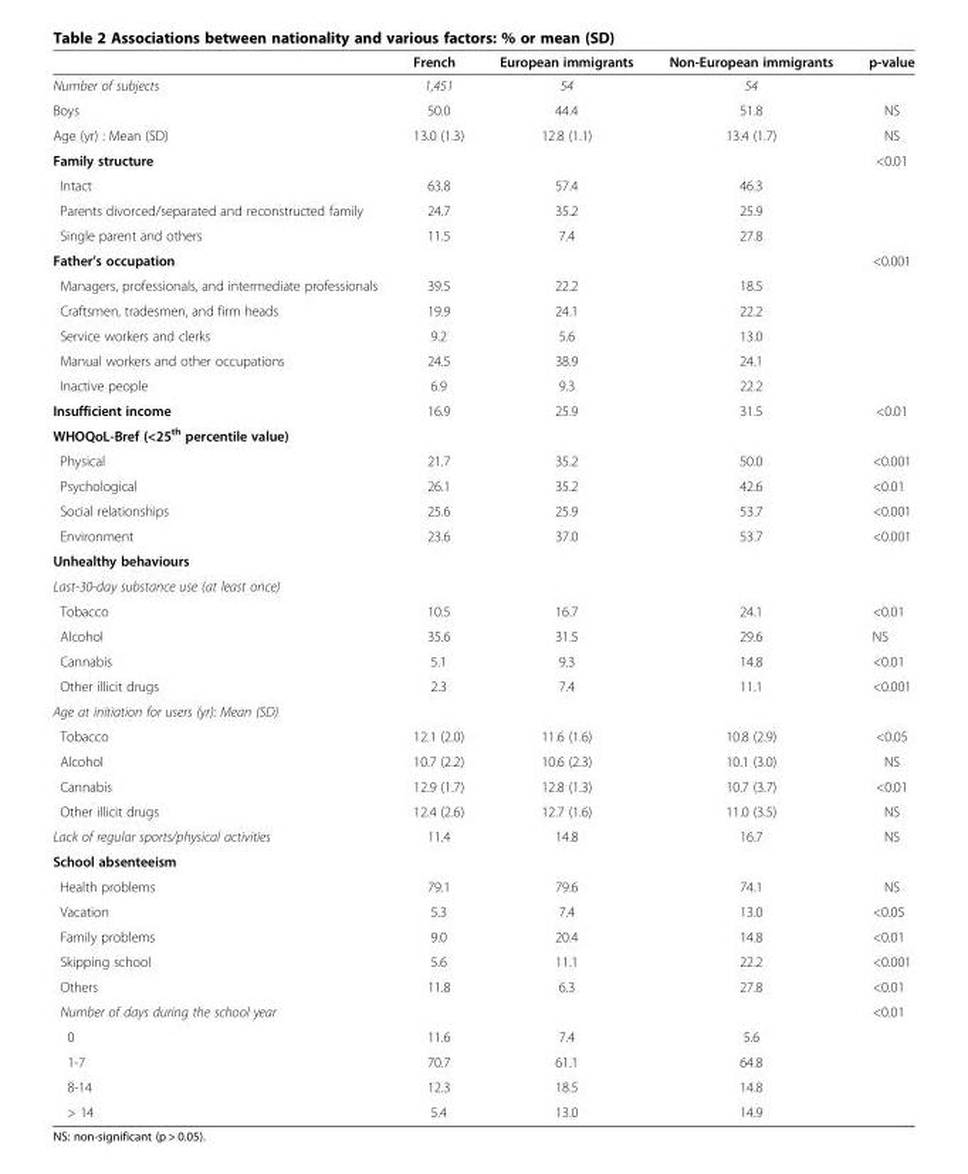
<table><thead><tr><td></td><td>French</td><td>European immigrants</td><td>Non-European immigrants</td><td>p-value</td></tr></thead><tbody><tr><td>Number of subjects</td><td>1,451</td><td>54</td><td>54</td><td></td></tr><tr><td>Boys</td><td>50.0</td><td>44.4</td><td>51.8</td><td>NS</td></tr><tr><td>Age (yr) : Mean (SD)</td><td>13.0 (1.3)</td><td>12.8 (1.1)</td><td>13.4 (1.7)</td><td>NS</td></tr><tr><td>Family structure</td><td></td><td></td><td></td><td>&lt;0.01</td></tr><tr><td>Intact</td><td>63.8</td><td>57.4</td><td>46.3</td><td></td></tr><tr><td>Parents divorced/separated and reconstructed family</td><td>24.7</td><td>35.2</td><td>25.9</td><td></td></tr><tr><td>Single parent and others</td><td>11.5</td><td>7.4</td><td>27.8</td><td></td></tr><tr><td>Father’s occupation</td><td></td><td></td><td></td><td>&lt;0.001</td></tr><tr><td>Managers, professionals, and intermediate professionals</td><td>39.5</td><td>22.2</td><td>18.5</td><td></td></tr><tr><td>Craftsmen, tradesmen, and firm heads</td><td>19.9</td><td>24.1</td><td>22.2</td><td></td></tr><tr><td>Service workers and clerks</td><td>9.2</td><td>5.6</td><td>13.0</td><td></td></tr><tr><td>Manual workers and other occupations</td><td>24.5</td><td>38.9</td><td>24.1</td><td></td></tr><tr><td>Inactive people</td><td>6.9</td><td>9.3</td><td>22.2</td><td></td></tr><tr><td>Insufficient income</td><td>16.9</td><td>25.9</td><td>31.5</td><td>&lt;0.01</td></tr><tr><td colspan="5">WHOQoL-Bref (&lt;25<sup>th</sup> percentile value)</td></tr><tr><td>Physical</td><td>21.7</td><td>35.2</td><td>50.0</td><td>&lt;0.001</td></tr><tr><td>Psychological</td><td>26.1</td><td>35.2</td><td>42.6</td><td>&lt;0.01</td></tr><tr><td>Social relationships</td><td>25.6</td><td>25.9</td><td>53.7</td><td>&lt;0.001</td></tr><tr><td>Environment</td><td>23.6</td><td>37.0</td><td>53.7</td><td>&lt;0.001</td></tr><tr><td colspan="5">Unhealthy behaviours</td></tr><tr><td colspan="5">Last-30-day substance use (at least once)</td></tr><tr><td>Tobacco</td><td>10.5</td><td>16.7</td><td>24.1</td><td>&lt;0.01</td></tr><tr><td>Alcohol</td><td>35.6</td><td>31.5</td><td>29.6</td><td>NS</td></tr><tr><td>Cannabis</td><td>5.1</td><td>9.3</td><td>14.8</td><td>&lt;0.01</td></tr><tr><td>Other illicit drugs</td><td>2.3</td><td>7.4</td><td>11.1</td><td>&lt;0.001</td></tr><tr><td colspan="5">Age at initiation for users (yr): Mean (SD)</td></tr><tr><td>Tobacco</td><td>12.1 (2.0)</td><td>11.6 (1.6)</td><td>10.8 (2.9)</td><td>&lt;0.05</td></tr><tr><td>Alcohol</td><td>10.7 (2.2)</td><td>10.6 (2.3)</td><td>10.1 (3.0)</td><td>NS</td></tr><tr><td>Cannabis</td><td>12.9 (1.7)</td><td>12.8 (1.3)</td><td>10.7 (3.7)</td><td>&lt;0.01</td></tr><tr><td>Other illicit drugs</td><td>12.4 (2.6)</td><td>12.7 (1.6)</td><td>11.0 (3.5)</td><td>NS</td></tr><tr><td>Lack of regular sports/physical activities</td><td>11.4</td><td>14.8</td><td>16.7</td><td>NS</td></tr><tr><td colspan="5">School absenteeism</td></tr><tr><td>Health problems</td><td>79.1</td><td>79.6</td><td>74.1</td><td>NS</td></tr><tr><td>Vacation</td><td>5.3</td><td>7.4</td><td>13.0</td><td>&lt;0.05</td></tr><tr><td>Family problems</td><td>9.0</td><td>20.4</td><td>14.8</td><td>&lt;0.01</td></tr><tr><td>Skipping school</td><td>5.6</td><td>11.1</td><td>22.2</td><td>&lt;0.001</td></tr><tr><td>Others</td><td>11.8</td><td>6.3</td><td>27.8</td><td>&lt;0.01</td></tr><tr><td>Number of days during the school year</td><td></td><td></td><td></td><td>&lt;0.01</td></tr><tr><td>0</td><td>11.6</td><td>7.4</td><td>5.6</td><td></td></tr><tr><td>1-7</td><td>70.7</td><td>61.1</td><td>64.8</td><td></td></tr><tr><td>8-14</td><td>12.3</td><td>18.5</td><td>14.8</td><td></td></tr><tr><td>&gt; 14</td><td>5.4</td><td>13.0</td><td>14.9</td><td></td></tr></tbody></table>